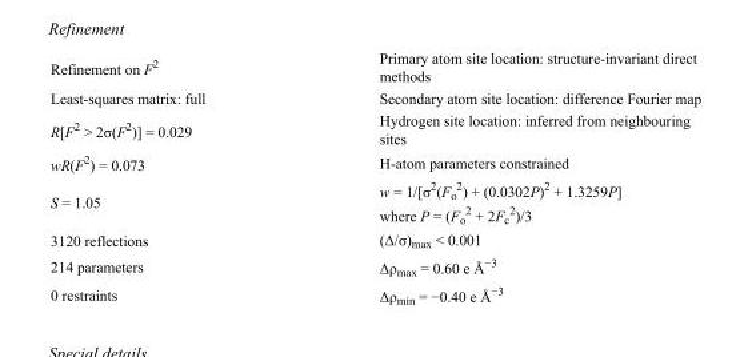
<table><tbody><tr><td>Refinement on F<sup>2</sup></td><td>Primary atom site location: structure-invariant direct methods</td></tr><tr><td>Least-squares matrix: full</td><td>Secondary atom site location: difference Fourier map</td></tr><tr><td>R[F<sup>2</sup> &gt; 2σ(F<sup>2</sup>)] = 0.029</td><td>Hydrogen site location: inferred from neighbouring sites</td></tr><tr><td>wR(F<sup>2</sup>) = 0.073</td><td>H-atom parameters constrained</td></tr><tr><td>S = 1.05</td><td>w = 1/[σ<sup>2</sup>(F<sub>o</sub> <sup>2</sup>) + (0.0302P)<sup>2</sup> + 1.3259P] where P = (F<sub>o</sub> <sup>2</sup> + 2F<sub>c</sub> <sup>2</sup>)/3</td></tr><tr><td>3120 reflections</td><td>(Δ/σ)<sub>max</sub> &lt; 0.001</td></tr><tr><td>214 parameters</td><td>Δρ<sub>max</sub> = 0.60 e Å<sup>−3</sup></td></tr><tr><td>0 restraints</td><td>Δρ<sub>min</sub> = −0.40 e Å<sup>−3</sup></td></tr></tbody></table>